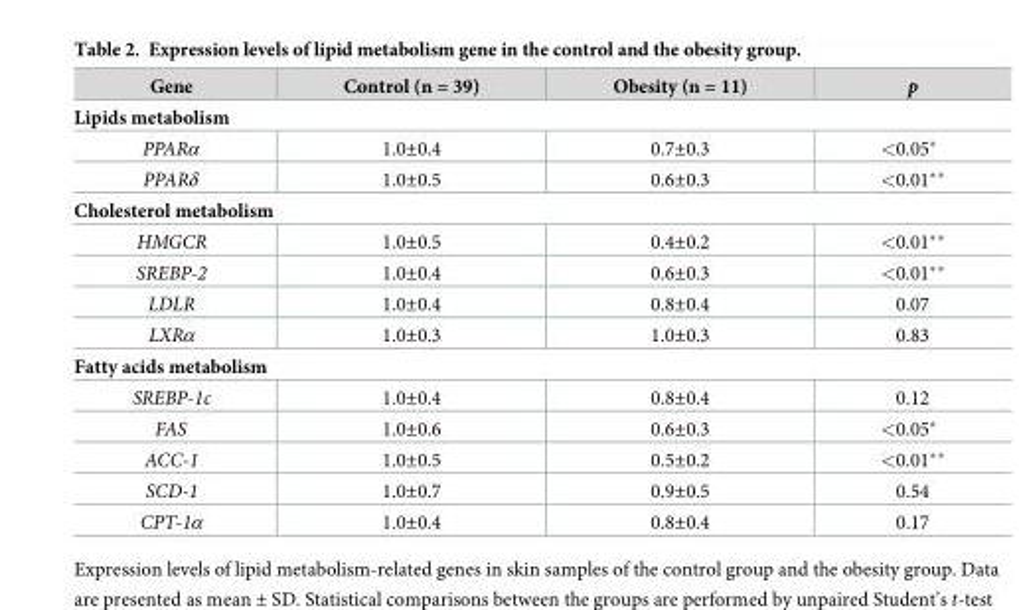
<table><thead><tr><td>Gene</td><td>Control (n = 39)</td><td>Obesity (n = 11)</td><td>p</td></tr></thead><tbody><tr><td colspan="4">Lipids metabolism</td></tr><tr><td>PPARα</td><td>1.0±0.4</td><td>0.7±0.3</td><td>&lt;0.05*</td></tr><tr><td>PPARδ</td><td>1.0±0.5</td><td>0.6±0.3</td><td>&lt;0.01**</td></tr><tr><td colspan="4">Cholesterol metabolism</td></tr><tr><td>HMGCR</td><td>1.0±0.5</td><td>0.4±0.2</td><td>&lt;0.01**</td></tr><tr><td>SREBP-2</td><td>1.0±0.4</td><td>0.6±0.3</td><td>&lt;0.01**</td></tr><tr><td>LDLR</td><td>1.0±0.4</td><td>0.8±0.4</td><td>0.07</td></tr><tr><td>LXRα</td><td>1.0±0.3</td><td>1.0±0.3</td><td>0.83</td></tr><tr><td colspan="4">Fatty acids metabolism</td></tr><tr><td>SREBP-1c</td><td>1.0±0.4</td><td>0.8±0.4</td><td>0.12</td></tr><tr><td>FAS</td><td>1.0±0.6</td><td>0.6±0.3</td><td>&lt;0.05*</td></tr><tr><td>ACC-1</td><td>1.0±0.5</td><td>0.5±0.2</td><td>&lt;0.01**</td></tr><tr><td>SCD-1</td><td>1.0±0.7</td><td>0.9±0.5</td><td>0.54</td></tr><tr><td>CPT-1α</td><td>1.0±0.4</td><td>0.8±0.4</td><td>0.17</td></tr></tbody></table>